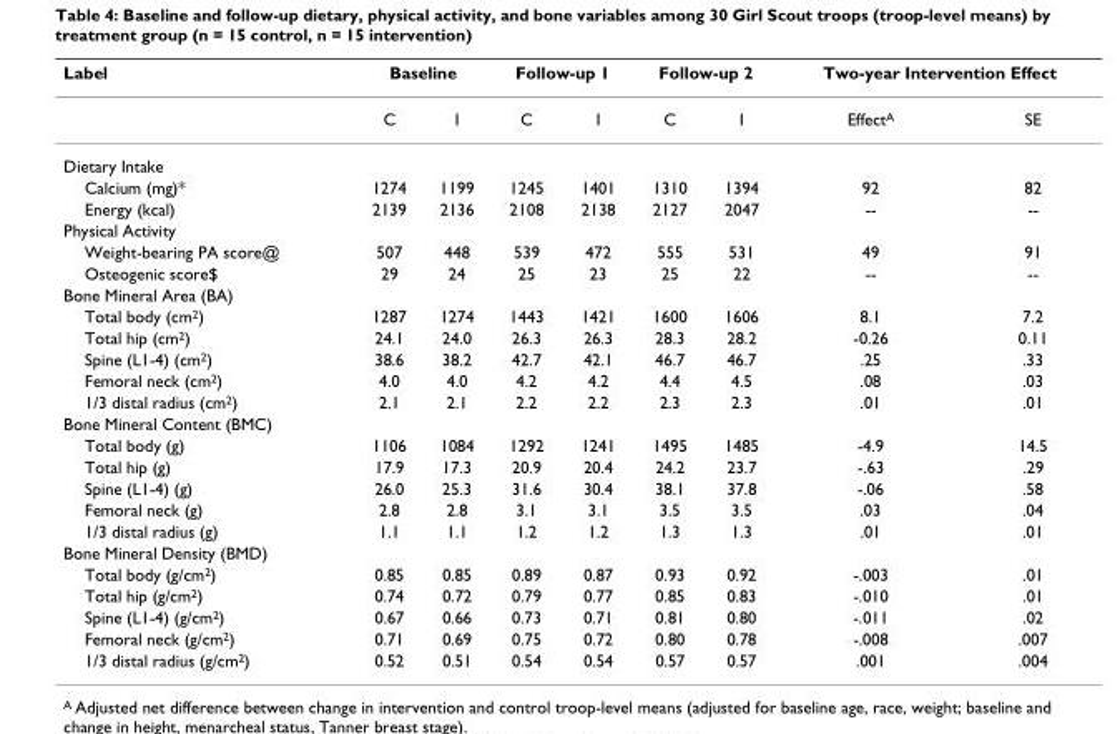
<table><thead><tr><td rowspan="2">Label</td><td colspan="2">Baseline</td><td colspan="2">Follow-up 1</td><td colspan="2">Follow-up 2</td><td colspan="2">Two-year Intervention Effect</td></tr><tr><td>C</td><td>I</td><td>C</td><td>I</td><td>C</td><td>I</td><td>Effect<sup>A</sup></td><td>SE</td></tr></thead><tbody><tr><td colspan="9">Dietary Intake</td></tr><tr><td>Calcium (mg)*</td><td>1274</td><td>1199</td><td>1245</td><td>1401</td><td>1310</td><td>1394</td><td>92</td><td>82</td></tr><tr><td>Energy (kcal)</td><td>2139</td><td>2136</td><td>2108</td><td>2138</td><td>2127</td><td>2047</td><td>--</td><td>--</td></tr><tr><td colspan="9">Physical Activity</td></tr><tr><td>Weight-bearing PA score@</td><td>507</td><td>448</td><td>539</td><td>472</td><td>555</td><td>531</td><td>49</td><td>91</td></tr><tr><td>Osteogenic score$</td><td>29</td><td>24</td><td>25</td><td>23</td><td>25</td><td>22</td><td>--</td><td>--</td></tr><tr><td colspan="9">Bone Mineral Area (BA)</td></tr><tr><td>Total body (cm<sup>2</sup>)</td><td>1287</td><td>1274</td><td>1443</td><td>1421</td><td>1600</td><td>1606</td><td>8.1</td><td>7.2</td></tr><tr><td>Total hip (cm<sup>2</sup>)</td><td>24.1</td><td>24.0</td><td>26.3</td><td>26.3</td><td>28.3</td><td>28.2</td><td>-0.26</td><td>0.11</td></tr><tr><td>Spine (L1-4) (cm<sup>2</sup>)</td><td>38.6</td><td>38.2</td><td>42.7</td><td>42.1</td><td>46.7</td><td>46.7</td><td>.25</td><td>.33</td></tr><tr><td>Femoral neck (cm<sup>2</sup>)</td><td>4.0</td><td>4.0</td><td>4.2</td><td>4.2</td><td>4.4</td><td>4.5</td><td>.08</td><td>.03</td></tr><tr><td>1/3 distal radius (cm<sup>2</sup>)</td><td>2.1</td><td>2.1</td><td>2.2</td><td>2.2</td><td>2.3</td><td>2.3</td><td>.01</td><td>.01</td></tr><tr><td colspan="9">Bone Mineral Content (BMC)</td></tr><tr><td>Total body (g)</td><td>1106</td><td>1084</td><td>1292</td><td>1241</td><td>1495</td><td>1485</td><td>-4.9</td><td>14.5</td></tr><tr><td>Total hip (g)</td><td>17.9</td><td>17.3</td><td>20.9</td><td>20.4</td><td>24.2</td><td>23.7</td><td>-.63</td><td>.29</td></tr><tr><td>Spine (L1-4) (g)</td><td>26.0</td><td>25.3</td><td>31.6</td><td>30.4</td><td>38.1</td><td>37.8</td><td>-.06</td><td>.58</td></tr><tr><td>Femoral neck (g)</td><td>2.8</td><td>2.8</td><td>3.1</td><td>3.1</td><td>3.5</td><td>3.5</td><td>.03</td><td>.04</td></tr><tr><td>1/3 distal radius (g)</td><td>1.1</td><td>1.1</td><td>1.2</td><td>1.2</td><td>1.3</td><td>1.3</td><td>.01</td><td>.01</td></tr><tr><td colspan="9">Bone Mineral Density (BMD)</td></tr><tr><td>Total body (g/cm<sup>2</sup>)</td><td>0.85</td><td>0.85</td><td>0.89</td><td>0.87</td><td>0.93</td><td>0.92</td><td>-.003</td><td>.01</td></tr><tr><td>Total hip (g/cm<sup>2</sup>)</td><td>0.74</td><td>0.72</td><td>0.79</td><td>0.77</td><td>0.85</td><td>0.83</td><td>-.010</td><td>.01</td></tr><tr><td>Spine (L1-4) (g/cm<sup>2</sup>)</td><td>0.67</td><td>0.66</td><td>0.73</td><td>0.71</td><td>0.81</td><td>0.80</td><td>-.011</td><td>.02</td></tr><tr><td>Femoral neck (g/cm<sup>2</sup>)</td><td>0.71</td><td>0.69</td><td>0.75</td><td>0.72</td><td>0.80</td><td>0.78</td><td>-.008</td><td>.007</td></tr><tr><td>1/3 distal radius (g/cm<sup>2</sup>)</td><td>0.52</td><td>0.51</td><td>0.54</td><td>0.54</td><td>0.57</td><td>0.57</td><td>.001</td><td>.004</td></tr></tbody></table>